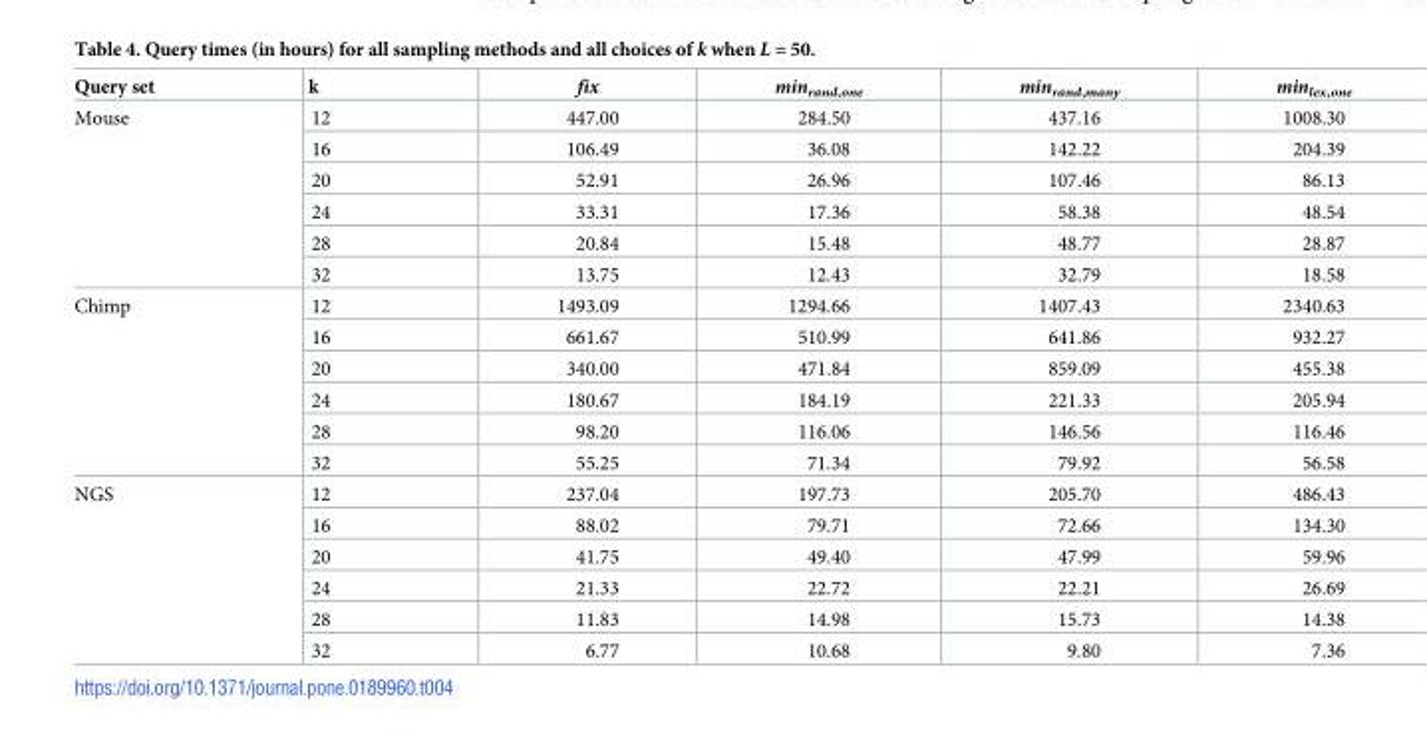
<table><thead><tr><td>Query set</td><td>k</td><td>fix</td><td>min<sub>rand,one</sub></td><td>min<sub>rand,many</sub></td><td>min<sub>lex,one</sub></td></tr></thead><tbody><tr><td rowspan="6">Mouse</td><td>12</td><td>447.00</td><td>284.50</td><td>437.16</td><td>1008.30</td></tr><tr><td>16</td><td>106.49</td><td>36.08</td><td>142.22</td><td>204.39</td></tr><tr><td>20</td><td>52.91</td><td>26.96</td><td>107.46</td><td>86.13</td></tr><tr><td>24</td><td>33.31</td><td>17.36</td><td>58.38</td><td>48.54</td></tr><tr><td>28</td><td>20.84</td><td>15.48</td><td>48.77</td><td>28.87</td></tr><tr><td>32</td><td>13.75</td><td>12.43</td><td>32.79</td><td>18.58</td></tr><tr><td rowspan="6">Chimp</td><td>12</td><td>1493.09</td><td>1294.66</td><td>1407.43</td><td>2340.63</td></tr><tr><td>16</td><td>661.67</td><td>510.99</td><td>641.86</td><td>932.27</td></tr><tr><td>20</td><td>340.00</td><td>471.84</td><td>859.09</td><td>455.38</td></tr><tr><td>24</td><td>180.67</td><td>184.19</td><td>221.33</td><td>205.94</td></tr><tr><td>28</td><td>98.20</td><td>116.06</td><td>146.56</td><td>116.46</td></tr><tr><td>32</td><td>55.25</td><td>71.34</td><td>79.92</td><td>56.58</td></tr><tr><td rowspan="6">NGS</td><td>12</td><td>237.04</td><td>197.73</td><td>205.70</td><td>486.43</td></tr><tr><td>16</td><td>88.02</td><td>79.71</td><td>72.66</td><td>134.30</td></tr><tr><td>20</td><td>41.75</td><td>49.40</td><td>47.99</td><td>59.96</td></tr><tr><td>24</td><td>21.33</td><td>22.72</td><td>22.21</td><td>26.69</td></tr><tr><td>28</td><td>11.83</td><td>14.98</td><td>15.73</td><td>14.38</td></tr><tr><td>32</td><td>6.77</td><td>10.68</td><td>9.80</td><td>7.36</td></tr></tbody></table>